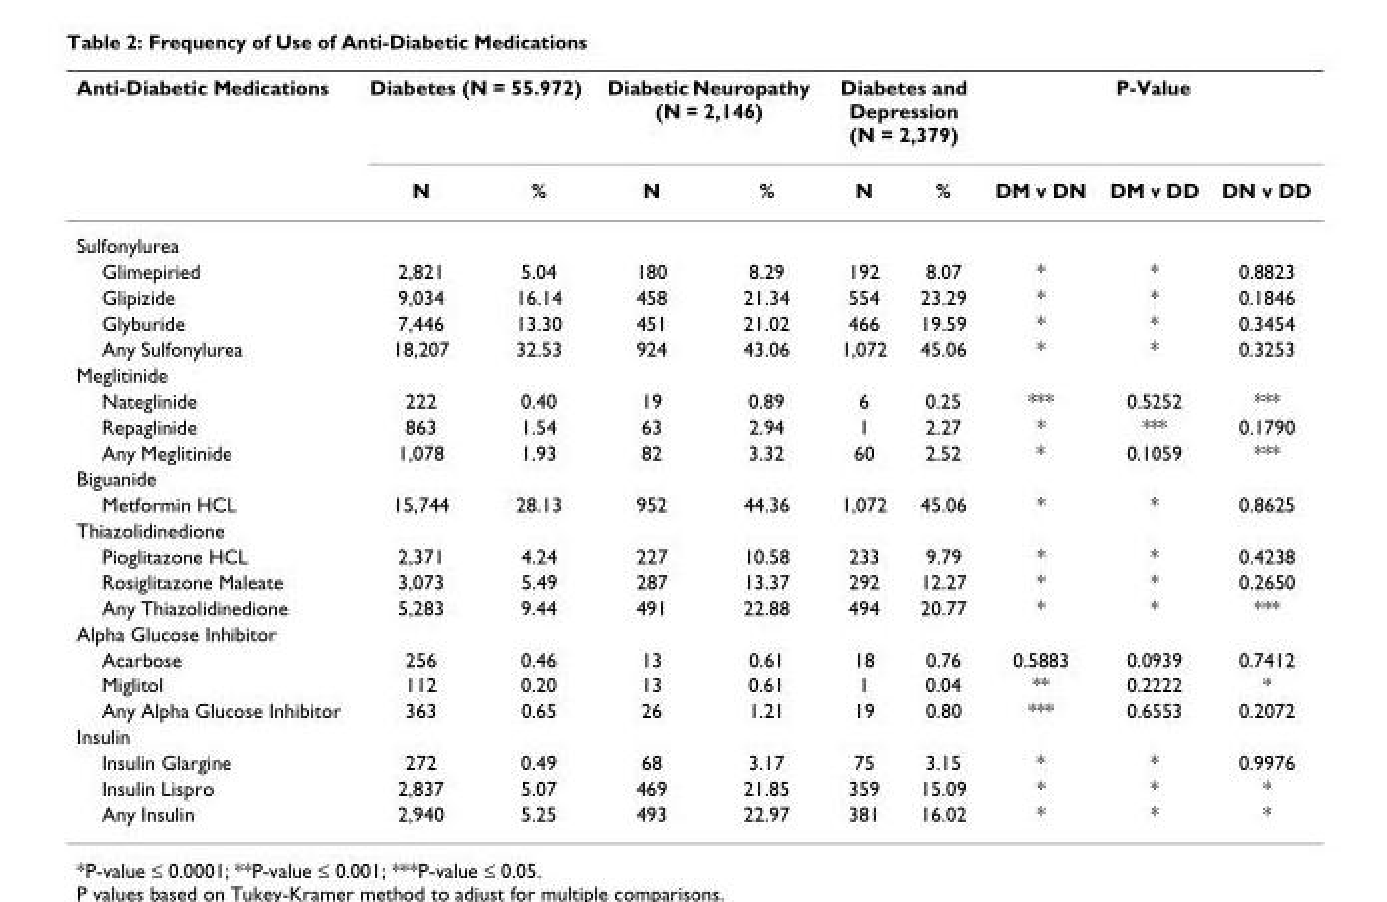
<table><thead><tr><td rowspan="2">Anti-Diabetic Medications</td><td colspan="2">Diabetes (N = 55.972)</td><td colspan="2">Diabetic Neuropathy (N = 2,146)</td><td colspan="2">Diabetes and Depression (N = 2,379)</td><td colspan="3">P-Value</td></tr><tr><td>N</td><td>%</td><td>N</td><td>%</td><td>N</td><td>%</td><td>DM v DN</td><td>DM v DD</td><td>DN v DD</td></tr></thead><tbody><tr><td colspan="10">Sulfonylurea</td></tr><tr><td>Glimepiried</td><td>2,821</td><td>5.04</td><td>180</td><td>8.29</td><td>192</td><td>8.07</td><td>*</td><td>*</td><td>0.8823</td></tr><tr><td>Glipizide</td><td>9,034</td><td>16.14</td><td>458</td><td>21.34</td><td>554</td><td>23.29</td><td>*</td><td>*</td><td>0.1846</td></tr><tr><td>Glyburide</td><td>7,446</td><td>13.30</td><td>451</td><td>21.02</td><td>466</td><td>19.59</td><td>*</td><td>*</td><td>0.3454</td></tr><tr><td>Any Sulfonylurea</td><td>18,207</td><td>32.53</td><td>924</td><td>43.06</td><td>1,072</td><td>45.06</td><td>*</td><td>*</td><td>0.3253</td></tr><tr><td colspan="10">Meglitinide</td></tr><tr><td>Nateglinide</td><td>222</td><td>0.40</td><td>19</td><td>0.89</td><td>6</td><td>0.25</td><td>***</td><td>0.5252</td><td>***</td></tr><tr><td>Repaglinide</td><td>863</td><td>1.54</td><td>63</td><td>2.94</td><td>1</td><td>2.27</td><td>*</td><td>***</td><td>0.1790</td></tr><tr><td>Any Meglitinide</td><td>1,078</td><td>1.93</td><td>82</td><td>3.32</td><td>60</td><td>2.52</td><td>*</td><td>0.1059</td><td>***</td></tr><tr><td colspan="10">Biguanide</td></tr><tr><td>Metformin HCL</td><td>15,744</td><td>28.13</td><td>952</td><td>44.36</td><td>1,072</td><td>45.06</td><td>*</td><td>*</td><td>0.8625</td></tr><tr><td colspan="10">Thiazolidinedione</td></tr><tr><td>Pioglitazone HCL</td><td>2,371</td><td>4.24</td><td>227</td><td>10.58</td><td>233</td><td>9.79</td><td>*</td><td>*</td><td>0.4238</td></tr><tr><td>Rosiglitazone Maleate</td><td>3,073</td><td>5.49</td><td>287</td><td>13.37</td><td>292</td><td>12.27</td><td>*</td><td>*</td><td>0.2650</td></tr><tr><td>Any Thiazolidinedione</td><td>5,283</td><td>9.44</td><td>491</td><td>22.88</td><td>494</td><td>20.77</td><td>*</td><td>*</td><td>***</td></tr><tr><td colspan="10">Alpha Glucose Inhibitor</td></tr><tr><td>Acarbose</td><td>256</td><td>0.46</td><td>13</td><td>0.61</td><td>18</td><td>0.76</td><td>0.5883</td><td>0.0939</td><td>0.7412</td></tr><tr><td>Miglitol</td><td>112</td><td>0.20</td><td>13</td><td>0.61</td><td>1</td><td>0.04</td><td>**</td><td>0.2222</td><td>*</td></tr><tr><td>Any Alpha Glucose Inhibitor</td><td>363</td><td>0.65</td><td>26</td><td>1.21</td><td>19</td><td>0.80</td><td>***</td><td>0.6553</td><td>0.2072</td></tr><tr><td colspan="10">Insulin</td></tr><tr><td>Insulin Glargine</td><td>272</td><td>0.49</td><td>68</td><td>3.17</td><td>75</td><td>3.15</td><td>*</td><td>*</td><td>0.9976</td></tr><tr><td>Insulin Lispro</td><td>2,837</td><td>5.07</td><td>469</td><td>21.85</td><td>359</td><td>15.09</td><td>*</td><td>*</td><td>*</td></tr><tr><td>Any Insulin</td><td>2,940</td><td>5.25</td><td>493</td><td>22.97</td><td>381</td><td>16.02</td><td>*</td><td>*</td><td>*</td></tr></tbody></table>